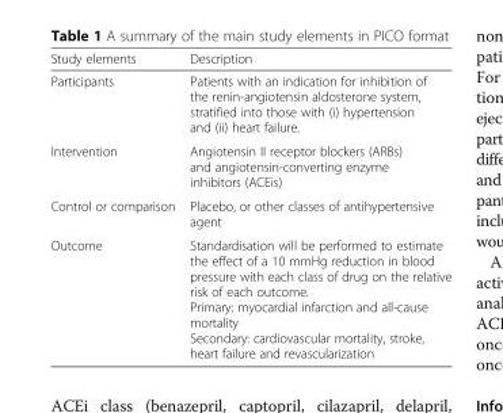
<table><thead><tr><td>Study elements</td><td>Description</td></tr></thead><tbody><tr><td>Participants</td><td>Patients with an indication for inhibition of the renin-angiotensin aldosterone system, stratified into those with (i) hypertension and (ii) heart failure.</td></tr><tr><td>Intervention</td><td>Angiotensin II receptor blockers (ARBs) and angiotensin-converting enzyme inhibitors (ACEis)</td></tr><tr><td>Control or comparison</td><td>Placebo, or other classes of antihypertensive agent</td></tr><tr><td>Outcome</td><td>Standardisation will be performed to estimate the effect of a 10 mmHg reduction in blood pressure with each class of drug on the relative risk of each outcome. Primary: myocardial infarction and all-cause mortality Secondary: cardiovascular mortality, stroke, heart failure and revascularization</td></tr></tbody></table>